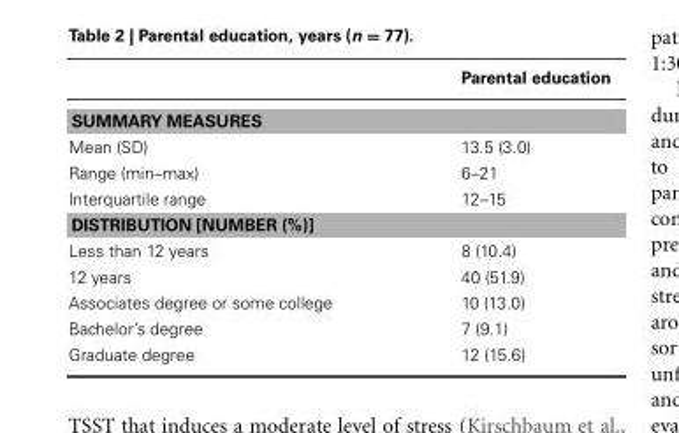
<table><thead><tr><td></td><td>Parental education</td></tr></thead><tbody><tr><td colspan="2">SUMMARY MEASURES</td></tr><tr><td>Mean (SD)</td><td>13.5 (3.0)</td></tr><tr><td>Range (min–max)</td><td>6–21</td></tr><tr><td>Interquartile range</td><td>12–15</td></tr><tr><td colspan="2">DISTRIBUTION [NUMBER (%)]</td></tr><tr><td>Less than 12 years</td><td>8 (10.4)</td></tr><tr><td>12 years</td><td>40 (51.9)</td></tr><tr><td>Associates degree or some college</td><td>10 (13.0)</td></tr><tr><td>Bachelor’s degree</td><td>7 (9.1)</td></tr><tr><td>Graduate degree</td><td>12 (15.6)</td></tr></tbody></table>